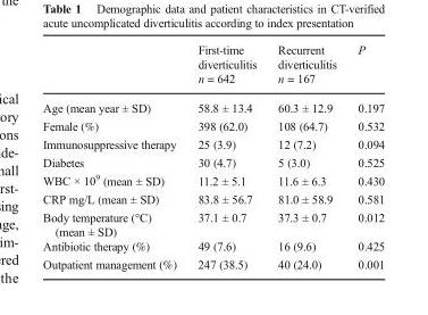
<table><thead><tr><td></td><td>First-time diverticulitis n = 642</td><td>Recurrent diverticulitis n = 167</td><td>P</td></tr></thead><tbody><tr><td>Age (mean year ± SD)</td><td>58.8 ± 13.4</td><td>60.3 ± 12.9</td><td>0.197</td></tr><tr><td>Female (%)</td><td>398 (62.0)</td><td>108 (64.7)</td><td>0.532</td></tr><tr><td>Immunosuppressive therapy</td><td>25 (3.9)</td><td>12 (7.2)</td><td>0.094</td></tr><tr><td>Diabetes</td><td>30 (4.7)</td><td>5 (3.0)</td><td>0.525</td></tr><tr><td>WBC × 10<sup>9</sup> (mean ± SD)</td><td>11.2 ± 5.1</td><td>11.6 ± 6.3</td><td>0.430</td></tr><tr><td>CRP mg/L (mean ± SD)</td><td>83.8 ± 56.7</td><td>81.0 ± 58.9</td><td>0.581</td></tr><tr><td>Body temperature (°C) (mean ± SD)</td><td>37.1 ± 0.7</td><td>37.3 ± 0.7</td><td>0.012</td></tr><tr><td>Antibiotic therapy (%)</td><td>49 (7.6)</td><td>16 (9.6)</td><td>0.425</td></tr><tr><td>Outpatient management (%)</td><td>247 (38.5)</td><td>40 (24.0)</td><td>0.001</td></tr></tbody></table>